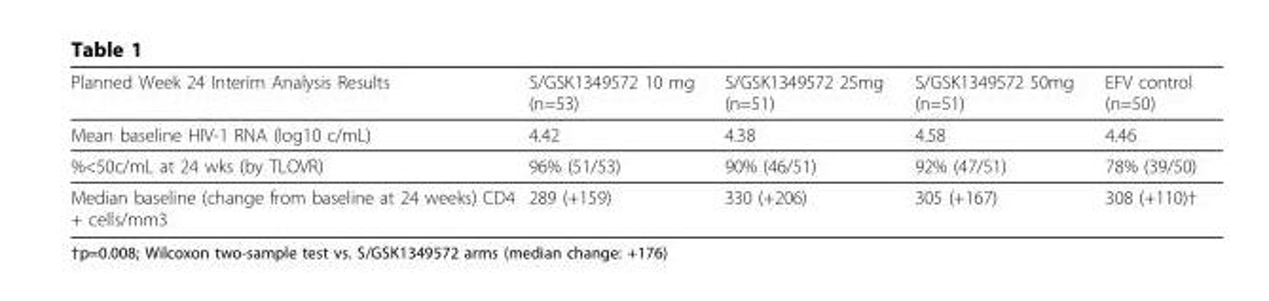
<table><thead><tr><td>Planned Week 24 Interim Analysis Results</td><td>S/GSK1349572 10 mg (n=53)</td><td>S/GSK1349572 25mg (n=51)</td><td>S/GSK1349572 50mg (n=51)</td><td>EFV control (n=50)</td></tr></thead><tbody><tr><td>Mean baseline HIV-1 RNA (log10 c/mL)</td><td>4.42</td><td>4.38</td><td>4.58</td><td>4.46</td></tr><tr><td>%&lt;50c/mL at 24 wks (by TLOVR)</td><td>96% (51/53)</td><td>90% (46/51)</td><td>92% (47/51)</td><td>78% (39/50)</td></tr><tr><td>Median baseline (change from baseline at 24 weeks) CD4 + cells/mm3</td><td>289 (+159)</td><td>330 (+206)</td><td>305 (+167)</td><td>308 (+110)†</td></tr></tbody></table>